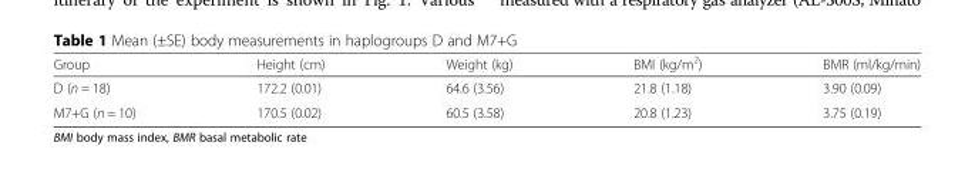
<table><thead><tr><td>Group</td><td>Height (cm)</td><td>Weight (kg)</td><td>BMI (kg/m<sup>2</sup>)</td><td>BMR (ml/kg/min)</td></tr></thead><tbody><tr><td>D (n = 18)</td><td>172.2 (0.01)</td><td>64.6 (3.56)</td><td>21.8 (1.18)</td><td>3.90 (0.09)</td></tr><tr><td>M7+G (n = 10)</td><td>170.5 (0.02)</td><td>60.5 (3.58)</td><td>20.8 (1.23)</td><td>3.75 (0.19)</td></tr></tbody></table>